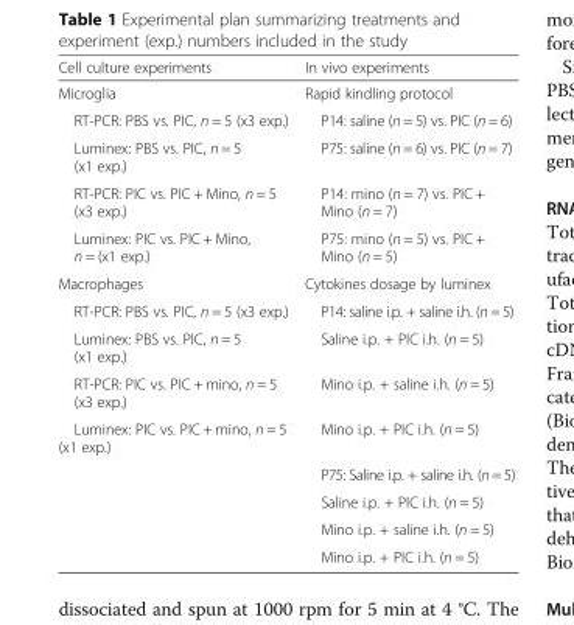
<table><thead><tr><td>Cell culture experiments</td><td>In vivo experiments</td></tr></thead><tbody><tr><td>Microglia</td><td>Rapid kindling protocol</td></tr><tr><td>RT-PCR: PBS vs. PIC, n = 5 (x3 exp.)</td><td>P14: saline (n = 5) vs. PIC (n = 6)</td></tr><tr><td>Luminex: PBS vs. PIC, n = 5 (x1 exp.)</td><td>P75: saline (n = 6) vs. PIC (n = 7)</td></tr><tr><td>RT-PCR: PIC vs. PIC + Mino, n = 5 (x3 exp.)</td><td>P14: mino (n = 7) vs. PIC + Mino (n = 7)</td></tr><tr><td>Luminex: PIC vs. PIC + Mino, n = (x1 exp.)</td><td>P75: mino (n = 5) vs. PIC + Mino (n = 5)</td></tr><tr><td>Macrophages</td><td>Cytokines dosage by luminex</td></tr><tr><td>RT-PCR: PBS vs. PIC, n = 5 (x3 exp.)</td><td>P14: saline i.p. + saline i.h. (n = 5)</td></tr><tr><td>Luminex: PBS vs. PIC, n = 5 (x1 exp.)</td><td>Saline i.p. + PIC i.h. (n = 5)</td></tr><tr><td>RT-PCR: PIC vs. PIC + mino, n = 5 (x3 exp.)</td><td>Mino i.p. + saline i.h. (n = 5)</td></tr><tr><td rowspan="5">Luminex: PIC vs. PIC + mino, n = 5 (x1 exp.)</td><td>Mino i.p. + PIC i.h. (n = 5)</td></tr><tr><td>P75: Saline i.p. + saline i.h. (n = 5)</td></tr><tr><td>Saline i.p. + PIC i.h. (n = 5)</td></tr><tr><td>Mino i.p. + saline i.h. (n = 5)</td></tr><tr><td>Mino i.p. + PIC i.h. (n = 5)</td></tr></tbody></table>